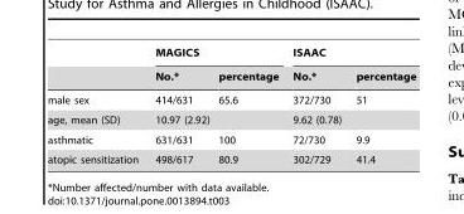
<table><thead><tr><td rowspan="2"></td><td colspan="2">MAGICS</td><td colspan="2">ISAAC</td></tr><tr><td>No.*</td><td>percentage</td><td>No.*</td><td>percentage</td></tr></thead><tbody><tr><td>male sex</td><td>414/631</td><td>65.6</td><td>372/730</td><td>51</td></tr><tr><td>age, mean (SD)</td><td colspan="2">10.97 (2.92)</td><td colspan="2">9.62 (0.78)</td></tr><tr><td>asthmatic</td><td>631/631</td><td>100</td><td>72/730</td><td>9.9</td></tr><tr><td>atopic sensitization</td><td>498/617</td><td>80.9</td><td>302/729</td><td>41.4</td></tr></tbody></table>